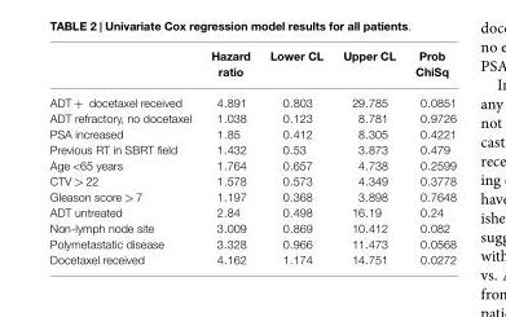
<table><thead><tr><td></td><td>Hazard ratio</td><td>Lower CL</td><td>Upper CL</td><td>Prob ChiSq</td></tr></thead><tbody><tr><td>ADT + docetaxel received</td><td>4.891</td><td>0.803</td><td>29.785</td><td>0.0851</td></tr><tr><td>ADT refractory, no docetaxel</td><td>1.038</td><td>0.123</td><td>8.781</td><td>0.9726</td></tr><tr><td>PSA increased</td><td>1.85</td><td>0.412</td><td>8.305</td><td>0.4221</td></tr><tr><td>Previous RT in SBRT field</td><td>1.432</td><td>0.53</td><td>3.873</td><td>0.479</td></tr><tr><td>Age &lt;65 years</td><td>1.764</td><td>0.657</td><td>4.738</td><td>0.2599</td></tr><tr><td>CTV &gt; 22</td><td>1.578</td><td>0.573</td><td>4.349</td><td>0.3778</td></tr><tr><td>Gleason score &gt; 7</td><td>1.197</td><td>0.368</td><td>3.898</td><td>0.7648</td></tr><tr><td>ADT untreated</td><td>2.84</td><td>0.498</td><td>16.19</td><td>0.24</td></tr><tr><td>Non-lymph node site</td><td>3.009</td><td>0.869</td><td>10.412</td><td>0.082</td></tr><tr><td>Polymetastatic disease</td><td>3.328</td><td>0.966</td><td>11.473</td><td>0.0568</td></tr><tr><td>Docetaxel received</td><td>4.162</td><td>1.174</td><td>14.751</td><td>0.0272</td></tr></tbody></table>